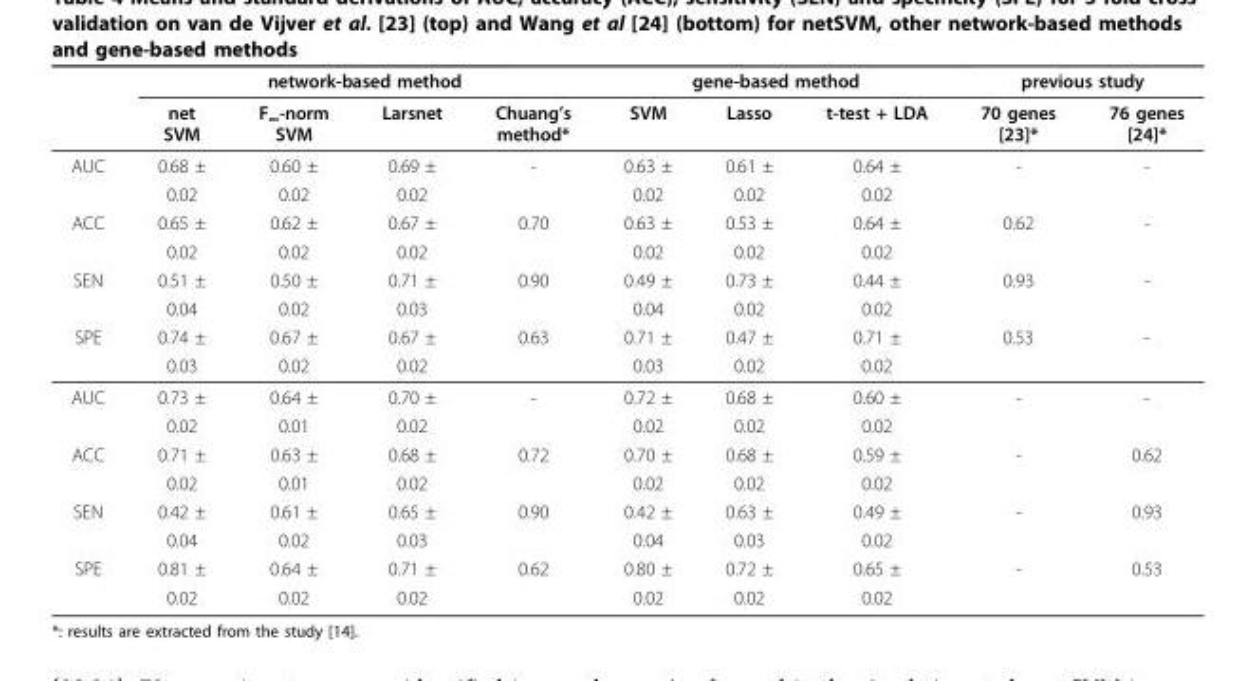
<table><thead><tr><td rowspan="2"></td><td colspan="4">network-based method</td><td colspan="3">gene-based method</td><td colspan="2">previous study</td></tr><tr><td>net SVM</td><td>F<sub>∞</sub>-norm SVM</td><td>Larsnet</td><td>Chuang’s method*</td><td>SVM</td><td>Lasso</td><td>t-test + LDA</td><td>70 genes [23]*</td><td>76 genes [24]*</td></tr></thead><tbody><tr><td rowspan="2">AUC</td><td>0.68 ±</td><td>0.60 ±</td><td>0.69 ±</td><td>-</td><td>0.63 ±</td><td>0.61 ±</td><td>0.64 ±</td><td>-</td><td>-</td></tr><tr><td>0.02</td><td>0.02</td><td>0.02</td><td></td><td>0.02</td><td>0.02</td><td>0.02</td><td></td><td></td></tr><tr><td rowspan="2">ACC</td><td>0.65 ±</td><td>0.62 ±</td><td>0.67 ±</td><td>0.70</td><td>0.63 ±</td><td>0.53 ±</td><td>0.64 ±</td><td>0.62</td><td>-</td></tr><tr><td>0.02</td><td>0.02</td><td>0.02</td><td></td><td>0.02</td><td>0.02</td><td>0.02</td><td></td><td></td></tr><tr><td rowspan="2">SEN</td><td>0.51 ±</td><td>0.50 ±</td><td>0.71 ±</td><td>0.90</td><td>0.49 ±</td><td>0.73 ±</td><td>0.44 ±</td><td>0.93</td><td>-</td></tr><tr><td>0.04</td><td>0.02</td><td>0.03</td><td></td><td>0.04</td><td>0.02</td><td>0.02</td><td></td><td></td></tr><tr><td rowspan="2">SPE</td><td>0.74 ±</td><td>0.67 ±</td><td>0.67 ±</td><td>0.63</td><td>0.71 ±</td><td>0.47 ±</td><td>0.71 ±</td><td>0.53</td><td>-</td></tr><tr><td>0.03</td><td>0.02</td><td>0.02</td><td></td><td>0.03</td><td>0.02</td><td>0.02</td><td></td><td></td></tr><tr><td rowspan="2">AUC</td><td>0.73 ±</td><td>0.64 ±</td><td>0.70 ±</td><td>-</td><td>0.72 ±</td><td>0.68 ±</td><td>0.60 ±</td><td>-</td><td>-</td></tr><tr><td>0.02</td><td>0.01</td><td>0.02</td><td></td><td>0.02</td><td>0.02</td><td>0.02</td><td></td><td></td></tr><tr><td rowspan="2">ACC</td><td>0.71 ±</td><td>0.63 ±</td><td>0.68 ±</td><td>0.72</td><td>0.70 ±</td><td>0.68 ±</td><td>0.59 ±</td><td>-</td><td>0.62</td></tr><tr><td>0.02</td><td>0.01</td><td>0.02</td><td></td><td>0.02</td><td>0.02</td><td>0.02</td><td></td><td></td></tr><tr><td rowspan="2">SEN</td><td>0.42 ±</td><td>0.61 ±</td><td>0.65 ±</td><td>0.90</td><td>0.42 ±</td><td>0.63 ±</td><td>0.49 ±</td><td>-</td><td>0.93</td></tr><tr><td>0.04</td><td>0.02</td><td>0.03</td><td></td><td>0.04</td><td>0.03</td><td>0.02</td><td></td><td></td></tr><tr><td rowspan="2">SPE</td><td>0.81 ±</td><td>0.64 ±</td><td>0.71 ±</td><td>0.62</td><td>0.80 ±</td><td>0.72 ±</td><td>0.65 ±</td><td>-</td><td>0.53</td></tr><tr><td>0.02</td><td>0.02</td><td>0.02</td><td></td><td>0.02</td><td>0.02</td><td>0.02</td><td></td><td></td></tr></tbody></table>